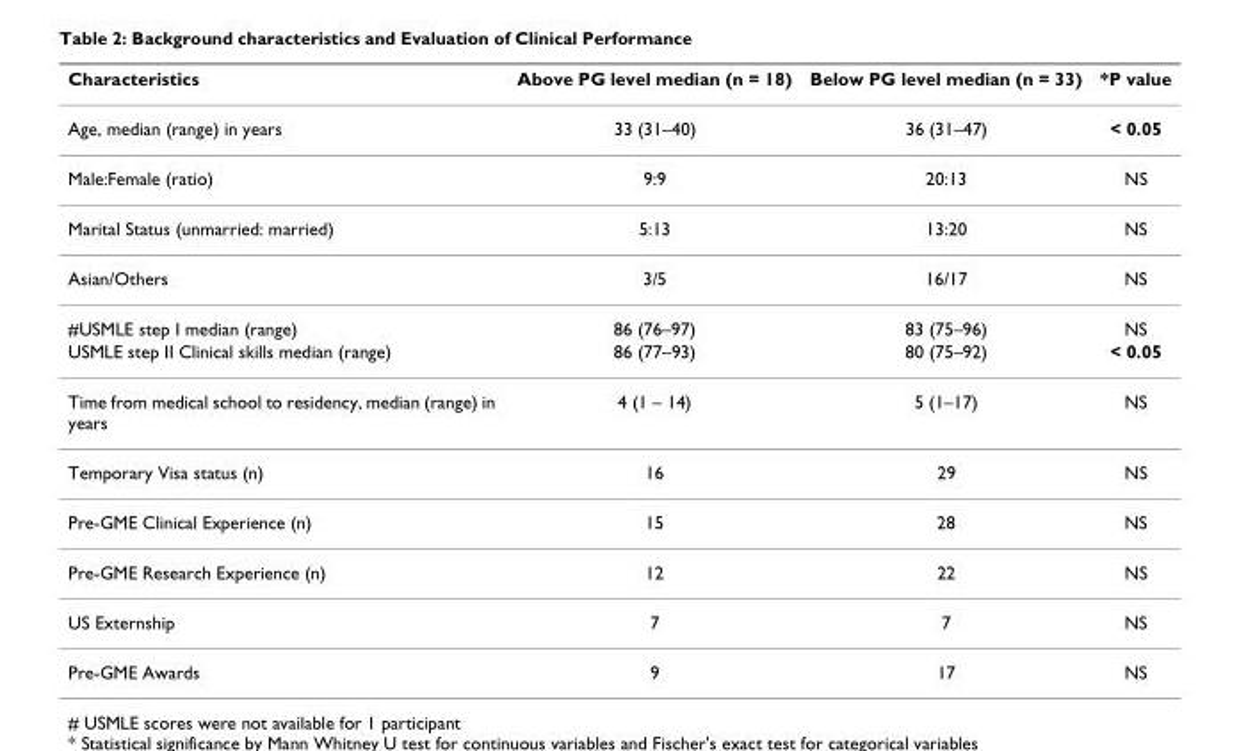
<table><thead><tr><td>Characteristics</td><td>Above PG level median (n = 18)</td><td>Below PG level median (n = 33)</td><td>*P value</td></tr></thead><tbody><tr><td>Age, median (range) in years</td><td>33 (31–40)</td><td>36 (31–47)</td><td>&lt; 0.05</td></tr><tr><td>Male:Female (ratio)</td><td>9:9</td><td>20:13</td><td>NS</td></tr><tr><td>Marital Status (unmarried: married)</td><td>5:13</td><td>13:20</td><td>NS</td></tr><tr><td>Asian/Others</td><td>3/5</td><td>16/17</td><td>NS</td></tr><tr><td>#USMLE step I median (range)</td><td>86 (76–97)</td><td>83 (75–96)</td><td>NS</td></tr><tr><td>USMLE step II Clinical skills median (range)</td><td>86 (77–93)</td><td>80 (75–92)</td><td>&lt; 0.05</td></tr><tr><td>Time from medical school to residency, median (range) in years</td><td>4 (1 – 14)</td><td>5 (1–17)</td><td>NS</td></tr><tr><td>Temporary Visa status (n)</td><td>16</td><td>29</td><td>NS</td></tr><tr><td>Pre-GME Clinical Experience (n)</td><td>15</td><td>28</td><td>NS</td></tr><tr><td>Pre-GME Research Experience (n)</td><td>12</td><td>22</td><td>NS</td></tr><tr><td>US Externship</td><td>7</td><td>7</td><td>NS</td></tr><tr><td>Pre-GME Awards</td><td>9</td><td>17</td><td>NS</td></tr></tbody></table>